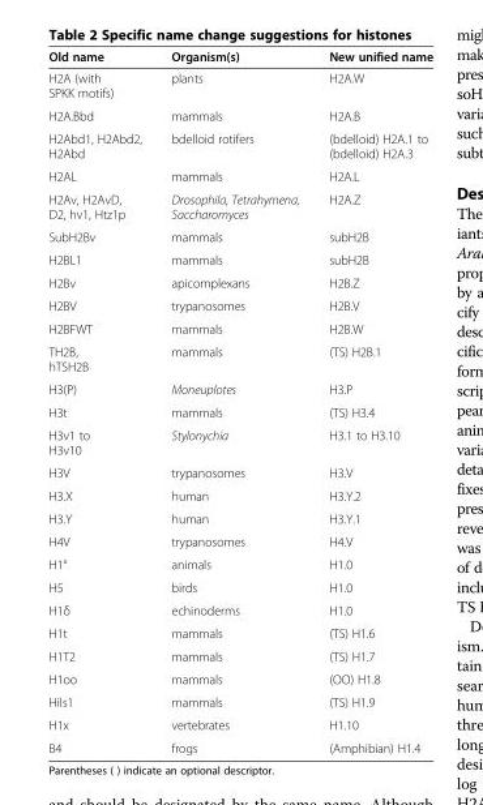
<table><thead><tr><td>Old name</td><td>Organism(s)</td><td>New unified name</td></tr></thead><tbody><tr><td>H2A (with SPKK motifs)</td><td>plants</td><td>H2A.W</td></tr><tr><td>H2A.Bbd</td><td>mammals</td><td>H2A.B</td></tr><tr><td>H2Abd1, H2Abd2, H2Abd</td><td>bdelloid rotifers</td><td>(bdelloid) H2A.1 to (bdelloid) H2A.3</td></tr><tr><td>H2AL</td><td>mammals</td><td>H2A.L</td></tr><tr><td>H2Av, H2AvD, D2, hv1, Htz1p</td><td>Drosophila, Tetrahymena, Saccharomyces</td><td>H2A.Z</td></tr><tr><td>SubH2Bv</td><td>mammals</td><td>subH2B</td></tr><tr><td>H2BL1</td><td>mammals</td><td>subH2B</td></tr><tr><td>H2Bv</td><td>apicomplexans</td><td>H2B.Z</td></tr><tr><td>H2BV</td><td>trypanosomes</td><td>H2B.V</td></tr><tr><td>H2BFWT</td><td>mammals</td><td>H2B.W</td></tr><tr><td>TH2B, hTSH2B</td><td>mammals</td><td>(TS) H2B.1</td></tr><tr><td>H3(P)</td><td>Moneuplotes</td><td>H3.P</td></tr><tr><td>H3t</td><td>mammals</td><td>(TS) H3.4</td></tr><tr><td>H3v1 to H3v10</td><td>Stylonychia</td><td>H3.1 to H3.10</td></tr><tr><td>H3V</td><td>trypanosomes</td><td>H3.V</td></tr><tr><td>H3.X</td><td>human</td><td>H3.Y.2</td></tr><tr><td>H3.Y</td><td>human</td><td>H3.Y.1</td></tr><tr><td>H4V</td><td>trypanosomes</td><td>H4.V</td></tr><tr><td>H1°</td><td>animals</td><td>H1.0</td></tr><tr><td>H5</td><td>birds</td><td>H1.0</td></tr><tr><td>H1δ</td><td>echinoderms</td><td>H1.0</td></tr><tr><td>H1t</td><td>mammals</td><td>(TS) H1.6</td></tr><tr><td>H1T2</td><td>mammals</td><td>(TS) H1.7</td></tr><tr><td>H1oo</td><td>mammals</td><td>(OO) H1.8</td></tr><tr><td>Hils1</td><td>mammals</td><td>(TS) H1.9</td></tr><tr><td>H1x</td><td>vertebrates</td><td>H1.10</td></tr><tr><td>B4</td><td>frogs</td><td>(Amphibian) H1.4</td></tr></tbody></table>